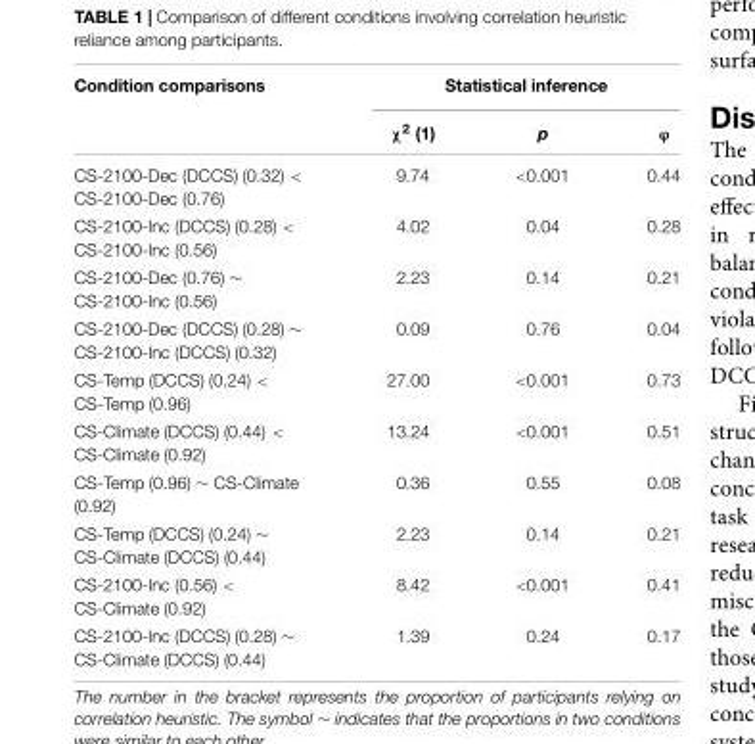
<table><thead><tr><td rowspan="2">Condition comparisons</td><td colspan="3">Statistical inference</td></tr><tr><td>χ<sup>2</sup> (1)</td><td>p</td><td>ϕ</td></tr></thead><tbody><tr><td>CS-2100-Dec (DCCS) (0.32) &lt; CS-2100-Dec (0.76)</td><td>9.74</td><td>&lt;0.001</td><td>0.44</td></tr><tr><td>CS-2100-Inc (DCCS) (0.28) &lt; CS-2100-Inc (0.56)</td><td>4.02</td><td>0.04</td><td>0.28</td></tr><tr><td>CS-2100-Dec (0.76) ∼ CS-2100-Inc (0.56)</td><td>2.23</td><td>0.14</td><td>0.21</td></tr><tr><td>CS-2100-Dec (DCCS) (0.28) ∼ CS-2100-Inc (DCCS) (0.32)</td><td>0.09</td><td>0.76</td><td>0.04</td></tr><tr><td>CS-Temp (DCCS) (0.24) &lt; CS-Temp (0.96)</td><td>27.00</td><td>&lt;0.001</td><td>0.73</td></tr><tr><td>CS-Climate (DCCS) (0.44) &lt; CS-Climate (0.92)</td><td>13.24</td><td>&lt;0.001</td><td>0.51</td></tr><tr><td>CS-Temp (0.96) ∼ CS-Climate (0.92)</td><td>0.36</td><td>0.55</td><td>0.08</td></tr><tr><td>CS-Temp (DCCS) (0.24) ∼ CS-Climate (DCCS) (0.44)</td><td>2.23</td><td>0.14</td><td>0.21</td></tr><tr><td>CS-2100-Inc (0.56) &lt; CS-Climate (0.92)</td><td>8.42</td><td>&lt;0.001</td><td>0.41</td></tr><tr><td>CS-2100-Inc (DCCS) (0.28) ∼ CS-Climate (DCCS) (0.44)</td><td>1.39</td><td>0.24</td><td>0.17</td></tr></tbody></table>